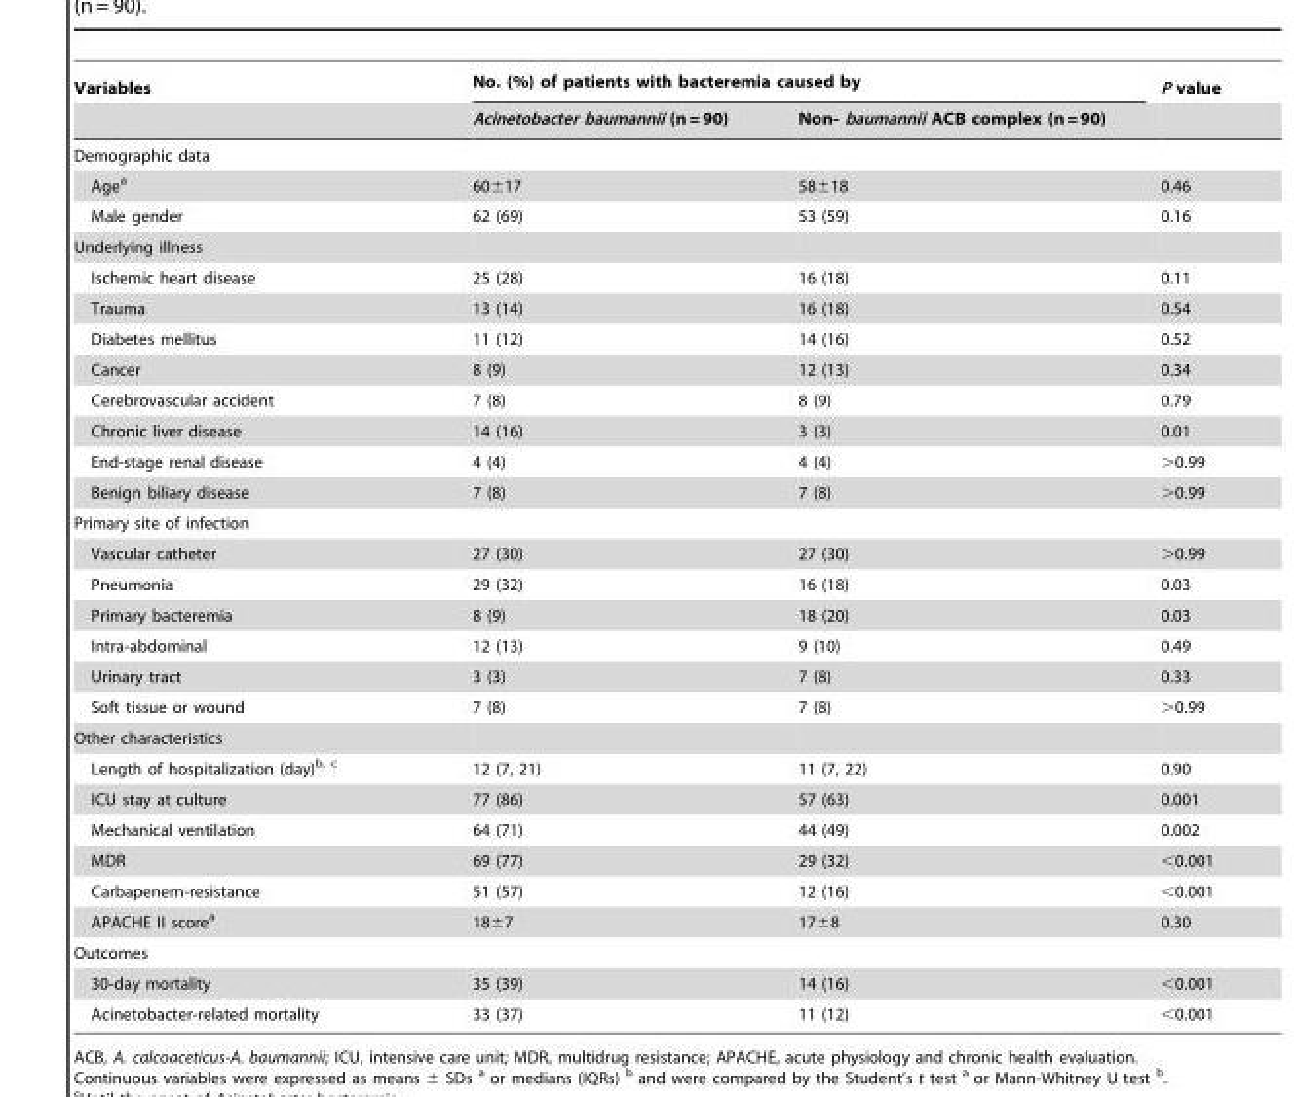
<table><thead><tr><td rowspan="2">Variables</td><td colspan="2">No. (%) of patients with bacteremia caused by</td><td rowspan="2">P value</td></tr><tr><td>Acinetobacter baumannii (n = 90)</td><td>Non- baumannii ACB complex (n = 90)</td></tr></thead><tbody><tr><td colspan="4">Demographic data</td></tr><tr><td>Age<sup>a</sup></td><td>60±17</td><td>58±18</td><td>0.46</td></tr><tr><td>Male gender</td><td>62 (69)</td><td>53 (59)</td><td>0.16</td></tr><tr><td colspan="4">Underlying illness</td></tr><tr><td>Ischemic heart disease</td><td>25 (28)</td><td>16 (18)</td><td>0.11</td></tr><tr><td>Trauma</td><td>13 (14)</td><td>16 (18)</td><td>0.54</td></tr><tr><td>Diabetes mellitus</td><td>11 (12)</td><td>14 (16)</td><td>0.52</td></tr><tr><td>Cancer</td><td>8 (9)</td><td>12 (13)</td><td>0.34</td></tr><tr><td>Cerebrovascular accident</td><td>7 (8)</td><td>8 (9)</td><td>0.79</td></tr><tr><td>Chronic liver disease</td><td>14 (16)</td><td>3 (3)</td><td>0.01</td></tr><tr><td>End-stage renal disease</td><td>4 (4)</td><td>4 (4)</td><td>&gt;0.99</td></tr><tr><td>Benign biliary disease</td><td>7 (8)</td><td>7 (8)</td><td>&gt;0.99</td></tr><tr><td colspan="4">Primary site of infection</td></tr><tr><td>Vascular catheter</td><td>27 (30)</td><td>27 (30)</td><td>&gt;0.99</td></tr><tr><td>Pneumonia</td><td>29 (32)</td><td>16 (18)</td><td>0.03</td></tr><tr><td>Primary bacteremia</td><td>8 (9)</td><td>18 (20)</td><td>0.03</td></tr><tr><td>Intra-abdominal</td><td>12 (13)</td><td>9 (10)</td><td>0.49</td></tr><tr><td>Urinary tract</td><td>3 (3)</td><td>7 (8)</td><td>0.33</td></tr><tr><td>Soft tissue or wound</td><td>7 (8)</td><td>7 (8)</td><td>&gt;0.99</td></tr><tr><td colspan="4">Other characteristics</td></tr><tr><td>Length of hospitalization (day)<sup>b,</sup> c</td><td>12 (7, 21)</td><td>11 (7, 22)</td><td>0.90</td></tr><tr><td>ICU stay at culture</td><td>77 (86)</td><td>57 (63)</td><td>0.001</td></tr><tr><td>Mechanical ventilation</td><td>64 (71)</td><td>44 (49)</td><td>0.002</td></tr><tr><td>MDR</td><td>69 (77)</td><td>29 (32)</td><td>&lt;0.001</td></tr><tr><td>Carbapenem-resistance</td><td>51 (57)</td><td>12 (16)</td><td>&lt;0.001</td></tr><tr><td>APACHE II score<sup>a</sup></td><td>18±7</td><td>17±8</td><td>0.30</td></tr><tr><td colspan="4">Outcomes</td></tr><tr><td>30-day mortality</td><td>35 (39)</td><td>14 (16)</td><td>&lt;0.001</td></tr><tr><td>Acinetobacter-related mortality</td><td>33 (37)</td><td>11 (12)</td><td>&lt;0.001</td></tr></tbody></table>